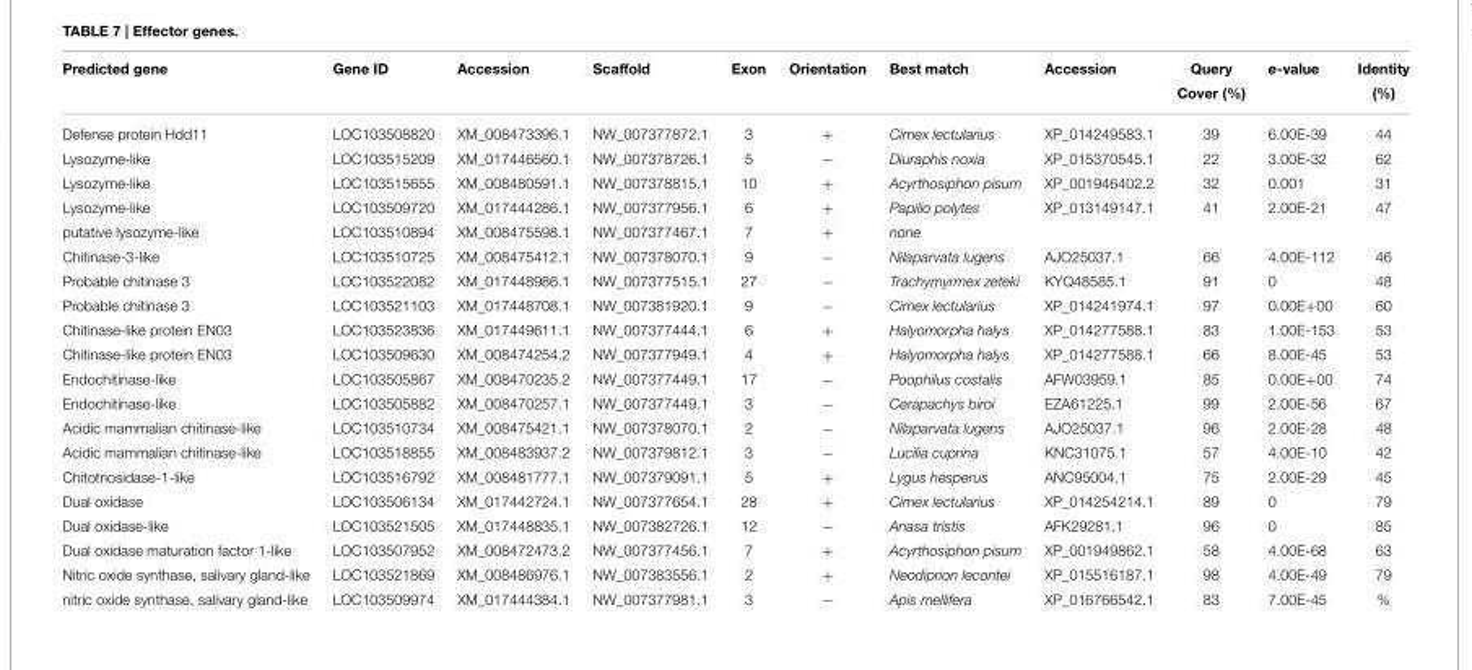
<table><thead><tr><td rowspan="2">Predicted gene</td><td rowspan="2">Gene ID</td><td rowspan="2">Accession</td><td rowspan="2">Scaffold</td><td rowspan="2">Exon</td><td rowspan="2">Orientation</td><td rowspan="2">Best match</td><td rowspan="2">Accession</td><td rowspan="2">Query Cover (%)</td><td rowspan="2">e-value</td><td rowspan="2">Identity (%)</td></tr><tr></tr></thead><tbody><tr><td>Defense protein Hdd11</td><td>LOC103508820</td><td>XM_008473396.1</td><td>NW_007377872.1</td><td>3</td><td>+</td><td>Cimex lectularius</td><td>XP_014249583.1</td><td>39</td><td>6.00E-39</td><td>44</td></tr><tr><td>Lysozyme-like</td><td>LOC103515209</td><td>XM_017446560.1</td><td>NW_007378726.1</td><td>5</td><td>−</td><td>Diuraphis noxia</td><td>XP_015370545.1</td><td>22</td><td>3.00E-32</td><td>62</td></tr><tr><td>Lysozyme-like</td><td>LOC103515655</td><td>XM_008480591.1</td><td>NW_007378815.1</td><td>10</td><td>+</td><td>Acyrthosiphon pisum</td><td>XP_001946402.2</td><td>32</td><td>0.001</td><td>31</td></tr><tr><td>Lysozyme-like</td><td>LOC103509720</td><td>XM_017444286.1</td><td>NW_007377956.1</td><td>6</td><td>+</td><td>Papilio polytes</td><td>XP_013149147.1</td><td>41</td><td>2.00E-21</td><td>47</td></tr><tr><td>putative lysozyme-like</td><td>LOC103510894</td><td>XM_008475598.1</td><td>NW_007377467.1</td><td>7</td><td>+</td><td>none</td><td></td><td></td><td></td><td></td></tr><tr><td>Chitinase-3-like</td><td>LOC103510725</td><td>XM_008475412.1</td><td>NW_007378070.1</td><td>9</td><td>−</td><td>Nilaparvata lugens</td><td>AJO25037.1</td><td>66</td><td>4.00E-112</td><td>46</td></tr><tr><td>Probable chitinase 3</td><td>LOC103522082</td><td>XM_017448986.1</td><td>NW_007377515.1</td><td>27</td><td>−</td><td>Trachymyrmex zeteki</td><td>KYQ48585.1</td><td>91</td><td>0</td><td>48</td></tr><tr><td>Probable chitinase 3</td><td>LOC103521103</td><td>XM_017448708.1</td><td>NW_007381920.1</td><td>9</td><td>−</td><td>Cimex lectularius</td><td>XP_014241974.1</td><td>97</td><td>0.00E+00</td><td>60</td></tr><tr><td>Chitinase-like protein EN03</td><td>LOC103523836</td><td>XM_017449611.1</td><td>NW_007377444.1</td><td>6</td><td>+</td><td>Halyomorpha halys</td><td>XP_014277588.1</td><td>83</td><td>1.00E-153</td><td>53</td></tr><tr><td>Chitinase-like protein EN03</td><td>LOC103509630</td><td>XM_008474254.2</td><td>NW_007377949.1</td><td>4</td><td>+</td><td>Halyomorpha halys</td><td>XP_014277588.1</td><td>66</td><td>8.00E-45</td><td>53</td></tr><tr><td>Endochitinase-like</td><td>LOC103505867</td><td>XM_008470235.2</td><td>NW_007377449.1</td><td>17</td><td>−</td><td>Poophilus costalis</td><td>AFW03959.1</td><td>85</td><td>0.00E+00</td><td>74</td></tr><tr><td>Endochitinase-like</td><td>LOC103505882</td><td>XM_008470257.1</td><td>NW_007377449.1</td><td>3</td><td>−</td><td>Cerapachys biroi</td><td>EZA61225.1</td><td>99</td><td>2.00E-56</td><td>67</td></tr><tr><td>Acidic mammalian chitinase-like</td><td>LOC103510734</td><td>XM_008475421.1</td><td>NW_007378070.1</td><td>2</td><td>−</td><td>Nilaparvata lugens</td><td>AJO25037.1</td><td>96</td><td>2.00E-28</td><td>48</td></tr><tr><td>Acidic mammalian chitinase-like</td><td>LOC103518855</td><td>XM_008483937.2</td><td>NW_007379812.1</td><td>3</td><td>−</td><td>Lucilia cuprina</td><td>KNC31075.1</td><td>57</td><td>4.00E-10</td><td>42</td></tr><tr><td>Chitotriosidase-1-like</td><td>LOC103516792</td><td>XM_008481777.1</td><td>NW_007379091.1</td><td>5</td><td>+</td><td>Lygus hesperus</td><td>ANC95004.1</td><td>75</td><td>2.00E-29</td><td>45</td></tr><tr><td>Dual oxidase</td><td>LOC103506134</td><td>XM_017442724.1</td><td>NW_007377654.1</td><td>28</td><td>+</td><td>Cimex lectularius</td><td>XP_014254214.1</td><td>89</td><td>0</td><td>79</td></tr><tr><td>Dual oxidase-like</td><td>LOC103521505</td><td>XM_017448835.1</td><td>NW_007382726.1</td><td>12</td><td>−</td><td>Anasa tristis</td><td>AFK29281.1</td><td>96</td><td>0</td><td>85</td></tr><tr><td>Dual oxidase maturation factor 1-like</td><td>LOC103507952</td><td>XM_008472473.2</td><td>NW_007377456.1</td><td>7</td><td>+</td><td>Acyrthosiphon pisum</td><td>XP_001949862.1</td><td>58</td><td>4.00E-68</td><td>63</td></tr><tr><td>Nitric oxide synthase, salivary gland-like</td><td>LOC103521869</td><td>XM_008486976.1</td><td>NW_007383556.1</td><td>2</td><td>+</td><td>Neodiprion lecontei</td><td>XP_015516187.1</td><td>98</td><td>4.00E-49</td><td>79</td></tr><tr><td>nitric oxide synthase, salivary gland-like</td><td>LOC103509974</td><td>XM_017444384.1</td><td>NW_007377981.1</td><td>3</td><td>−</td><td>Apis mellifera</td><td>XP_016766542.1</td><td>83</td><td>7.00E-45</td><td>%</td></tr></tbody></table>